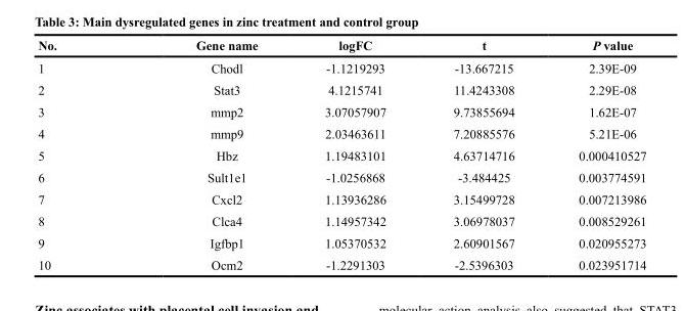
<table><thead><tr><td>No.</td><td>Gene name</td><td>logFC</td><td>t</td><td>P value</td></tr></thead><tbody><tr><td>1</td><td>Chodl</td><td>-1.1219293</td><td>-13.667215</td><td>2.39E-09</td></tr><tr><td>2</td><td>Stat3</td><td>4.1215741</td><td>11.4243308</td><td>2.29E-08</td></tr><tr><td>3</td><td>mmp2</td><td>3.07057907</td><td>9.73855694</td><td>1.62E-07</td></tr><tr><td>4</td><td>mmp9</td><td>2.03463611</td><td>7.20885576</td><td>5.21E-06</td></tr><tr><td>5</td><td>Hbz</td><td>1.19483101</td><td>4.63714716</td><td>0.000410527</td></tr><tr><td>6</td><td>Sult1e1</td><td>-1.0256868</td><td>-3.484425</td><td>0.003774591</td></tr><tr><td>7</td><td>Cxcl2</td><td>1.13936286</td><td>3.15499728</td><td>0.007213986</td></tr><tr><td>8</td><td>Clca4</td><td>1.14957342</td><td>3.06978037</td><td>0.008529261</td></tr><tr><td>9</td><td>Igfbp1</td><td>1.05370532</td><td>2.60901567</td><td>0.020955273</td></tr><tr><td>10</td><td>Ocm2</td><td>-1.2291303</td><td>-2.5396303</td><td>0.023951714</td></tr></tbody></table>